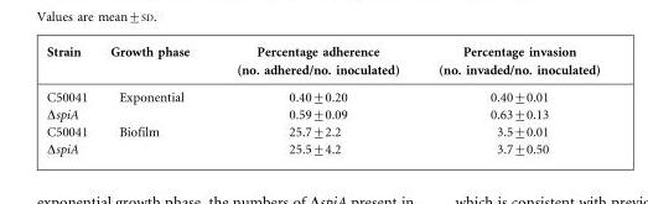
<table><thead><tr><td>Strain</td><td>Growth phase</td><td>Percentage adherence (no. adhered/no. inoculated)</td><td>Percentage invasion (no. invaded/no. inoculated)</td></tr></thead><tbody><tr><td>C50041</td><td>Exponential</td><td>0.40±0.20</td><td>0.40±0.01</td></tr><tr><td>ΔspiA</td><td></td><td>0.59±0.09</td><td>0.63±0.13</td></tr><tr><td>C50041</td><td>Biofilm</td><td>25.7±2.2</td><td>3.5±0.01</td></tr><tr><td>ΔspiA</td><td></td><td>25.5±4.2</td><td>3.7±0.50</td></tr></tbody></table>